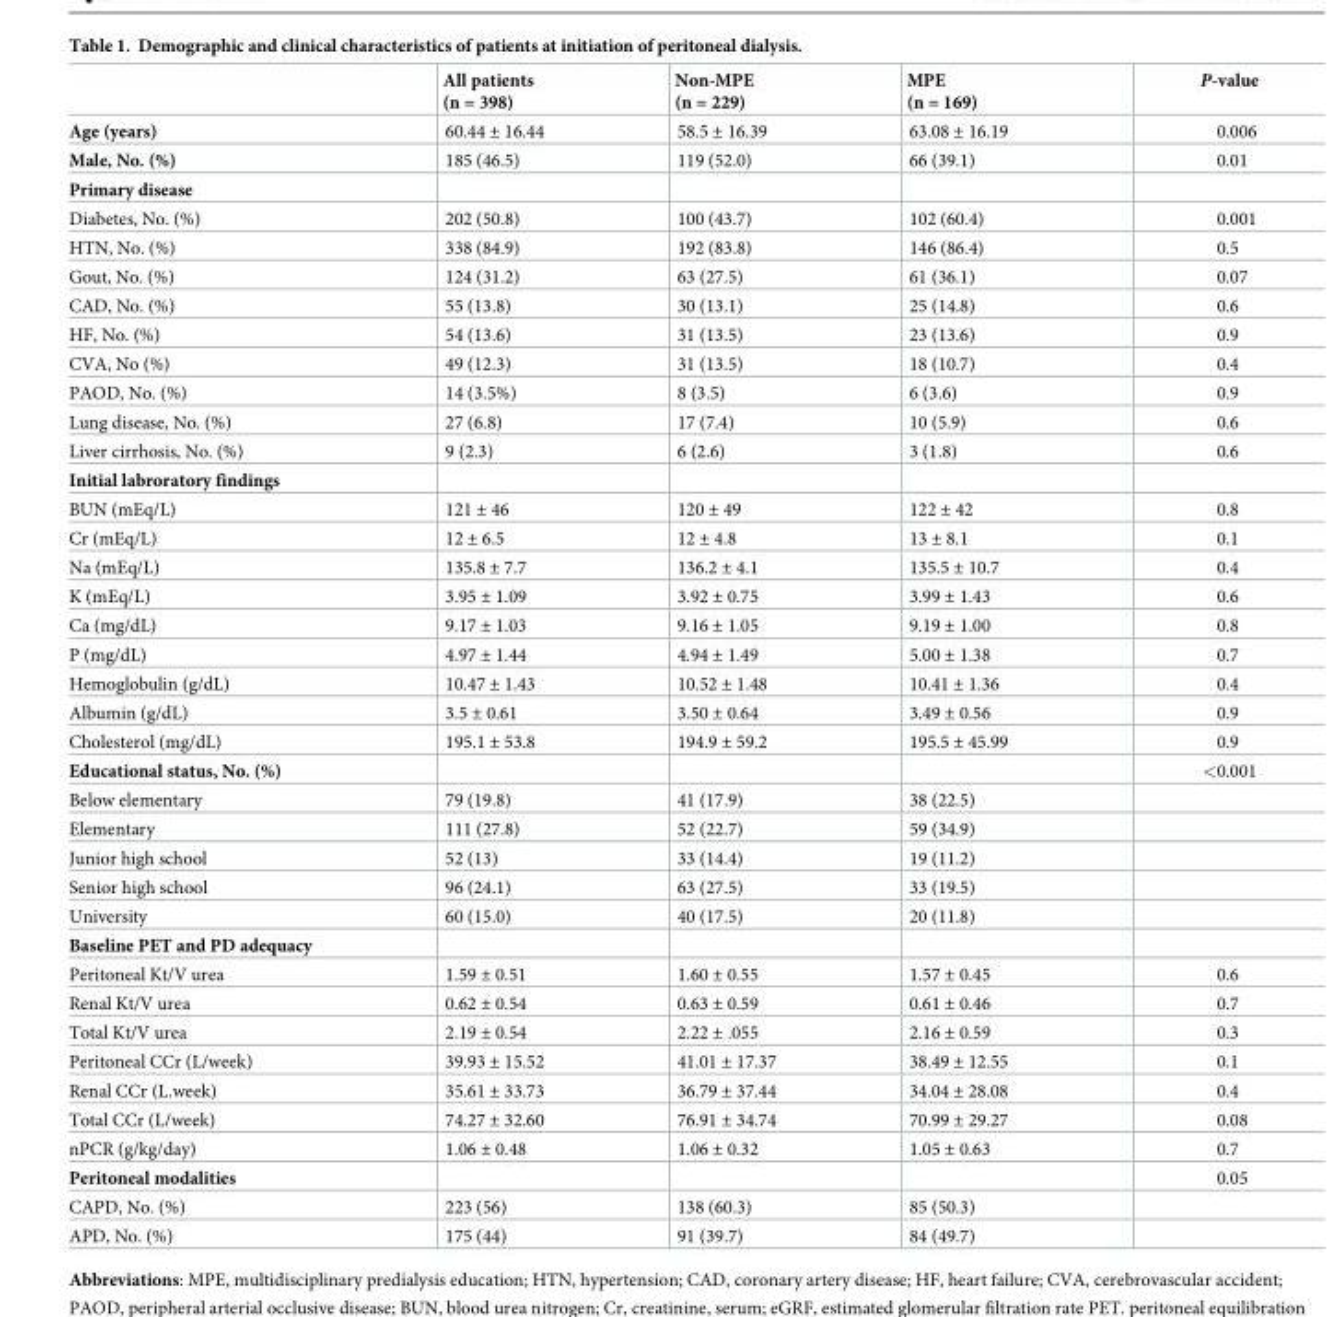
<table><thead><tr><td></td><td>All patients (n = 398)</td><td>Non-MPE (n = 229)</td><td>MPE (n = 169)</td><td>P-value</td></tr></thead><tbody><tr><td>Age (years)</td><td>60.44 ± 16.44</td><td>58.5 ± 16.39</td><td>63.08 ± 16.19</td><td>0.006</td></tr><tr><td>Male, No. (%)</td><td>185 (46.5)</td><td>119 (52.0)</td><td>66 (39.1)</td><td>0.01</td></tr><tr><td colspan="5">Primary disease</td></tr><tr><td>Diabetes, No. (%)</td><td>202 (50.8)</td><td>100 (43.7)</td><td>102 (60.4)</td><td>0.001</td></tr><tr><td>HTN, No. (%)</td><td>338 (84.9)</td><td>192 (83.8)</td><td>146 (86.4)</td><td>0.5</td></tr><tr><td>Gout, No. (%)</td><td>124 (31.2)</td><td>63 (27.5)</td><td>61 (36.1)</td><td>0.07</td></tr><tr><td>CAD, No. (%)</td><td>55 (13.8)</td><td>30 (13.1)</td><td>25 (14.8)</td><td>0.6</td></tr><tr><td>HF, No. (%)</td><td>54 (13.6)</td><td>31 (13.5)</td><td>23 (13.6)</td><td>0.9</td></tr><tr><td>CVA, No (%)</td><td>49 (12.3)</td><td>31 (13.5)</td><td>18 (10.7)</td><td>0.4</td></tr><tr><td>PAOD, No. (%)</td><td>14 (3.5%)</td><td>8 (3.5)</td><td>6 (3.6)</td><td>0.9</td></tr><tr><td>Lung disease, No. (%)</td><td>27 (6.8)</td><td>17 (7.4)</td><td>10 (5.9)</td><td>0.6</td></tr><tr><td>Liver cirrhosis, No. (%)</td><td>9 (2.3)</td><td>6 (2.6)</td><td>3 (1.8)</td><td>0.6</td></tr><tr><td colspan="5">Initial labroratory findings</td></tr><tr><td>BUN (mEq/L)</td><td>121 ± 46</td><td>120 ± 49</td><td>122 ± 42</td><td>0.8</td></tr><tr><td>Cr (mEq/L)</td><td>12 ± 6.5</td><td>12 ± 4.8</td><td>13 ± 8.1</td><td>0.1</td></tr><tr><td>Na (mEq/L)</td><td>135.8 ± 7.7</td><td>136.2 ± 4.1</td><td>135.5 ± 10.7</td><td>0.4</td></tr><tr><td>K (mEq/L)</td><td>3.95 ± 1.09</td><td>3.92 ± 0.75</td><td>3.99 ± 1.43</td><td>0.6</td></tr><tr><td>Ca (mg/dL)</td><td>9.17 ± 1.03</td><td>9.16 ± 1.05</td><td>9.19 ± 1.00</td><td>0.8</td></tr><tr><td>P (mg/dL)</td><td>4.97 ± 1.44</td><td>4.94 ± 1.49</td><td>5.00 ± 1.38</td><td>0.7</td></tr><tr><td>Hemoglobulin (g/dL)</td><td>10.47 ± 1.43</td><td>10.52 ± 1.48</td><td>10.41 ± 1.36</td><td>0.4</td></tr><tr><td>Albumin (g/dL)</td><td>3.5 ± 0.61</td><td>3.50 ± 0.64</td><td>3.49 ± 0.56</td><td>0.9</td></tr><tr><td>Cholesterol (mg/dL)</td><td>195.1 ± 53.8</td><td>194.9 ± 59.2</td><td>195.5 ± 45.99</td><td>0.9</td></tr><tr><td>Educational status, No. (%)</td><td></td><td></td><td></td><td>&lt;0.001</td></tr><tr><td>Below elementary</td><td>79 (19.8)</td><td>41 (17.9)</td><td>38 (22.5)</td><td></td></tr><tr><td>Elementary</td><td>111 (27.8)</td><td>52 (22.7)</td><td>59 (34.9)</td><td></td></tr><tr><td>Junior high school</td><td>52 (13)</td><td>33 (14.4)</td><td>19 (11.2)</td><td></td></tr><tr><td>Senior high school</td><td>96 (24.1)</td><td>63 (27.5)</td><td>33 (19.5)</td><td></td></tr><tr><td>University</td><td>60 (15.0)</td><td>40 (17.5)</td><td>20 (11.8)</td><td></td></tr><tr><td colspan="5">Baseline PET and PD adequacy</td></tr><tr><td>Peritoneal Kt/V urea</td><td>1.59 ± 0.51</td><td>1.60 ± 0.55</td><td>1.57 ± 0.45</td><td>0.6</td></tr><tr><td>Renal Kt/V urea</td><td>0.62 ± 0.54</td><td>0.63 ± 0.59</td><td>0.61 ± 0.46</td><td>0.7</td></tr><tr><td>Total Kt/V urea</td><td>2.19 ± 0.54</td><td>2.22 ± .055</td><td>2.16 ± 0.59</td><td>0.3</td></tr><tr><td>Peritoneal CCr (L/week)</td><td>39.93 ± 15.52</td><td>41.01 ± 17.37</td><td>38.49 ± 12.55</td><td>0.1</td></tr><tr><td>Renal CCr (L.week)</td><td>35.61 ± 33.73</td><td>36.79 ± 37.44</td><td>34.04 ± 28.08</td><td>0.4</td></tr><tr><td>Total CCr (L/week)</td><td>74.27 ± 32.60</td><td>76.91 ± 34.74</td><td>70.99 ± 29.27</td><td>0.08</td></tr><tr><td>nPCR (g/kg/day)</td><td>1.06 ± 0.48</td><td>1.06 ± 0.32</td><td>1.05 ± 0.63</td><td>0.7</td></tr><tr><td>Peritoneal modalities</td><td></td><td></td><td></td><td>0.05</td></tr><tr><td>CAPD, No. (%)</td><td>223 (56)</td><td>138 (60.3)</td><td>85 (50.3)</td><td></td></tr><tr><td>APD, No. (%)</td><td>175 (44)</td><td>91 (39.7)</td><td>84 (49.7)</td><td></td></tr></tbody></table>